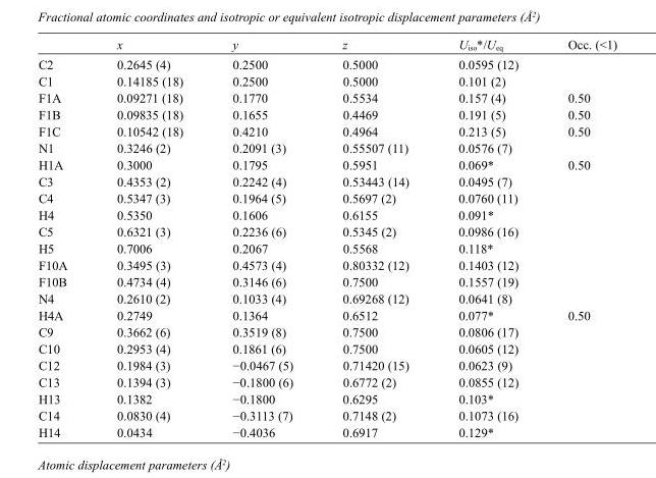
<table><thead><tr><td></td><td>x</td><td>y</td><td>z</td><td>U<sub>iso</sub>*/U<sub>eq</sub></td><td>Occ. (&lt;1)</td></tr></thead><tbody><tr><td>C2</td><td>0.2645 (4)</td><td>0.2500</td><td>0.5000</td><td>0.0595 (12)</td><td></td></tr><tr><td>C1</td><td>0.14185 (18)</td><td>0.2500</td><td>0.5000</td><td>0.101 (2)</td><td></td></tr><tr><td>F1A</td><td>0.09271 (18)</td><td>0.1770</td><td>0.5534</td><td>0.157 (4)</td><td>0.50</td></tr><tr><td>F1B</td><td>0.09835 (18)</td><td>0.1655</td><td>0.4469</td><td>0.191 (5)</td><td>0.50</td></tr><tr><td>F1C</td><td>0.10542 (18)</td><td>0.4210</td><td>0.4964</td><td>0.213 (5)</td><td>0.50</td></tr><tr><td>N1</td><td>0.3246 (2)</td><td>0.2091 (3)</td><td>0.55507 (11)</td><td>0.0576 (7)</td><td></td></tr><tr><td>H1A</td><td>0.3000</td><td>0.1795</td><td>0.5951</td><td>0.069*</td><td>0.50</td></tr><tr><td>C3</td><td>0.4353 (2)</td><td>0.2242 (4)</td><td>0.53443 (14)</td><td>0.0495 (7)</td><td></td></tr><tr><td>C4</td><td>0.5347 (3)</td><td>0.1964 (5)</td><td>0.5697 (2)</td><td>0.0760 (11)</td><td></td></tr><tr><td>H4</td><td>0.5350</td><td>0.1606</td><td>0.6155</td><td>0.091*</td><td></td></tr><tr><td>C5</td><td>0.6321 (3)</td><td>0.2236 (6)</td><td>0.5345 (2)</td><td>0.0986 (16)</td><td></td></tr><tr><td>H5</td><td>0.7006</td><td>0.2067</td><td>0.5568</td><td>0.118*</td><td></td></tr><tr><td>F10A</td><td>0.3495 (3)</td><td>0.4573 (4)</td><td>0.80332 (12)</td><td>0.1403 (12)</td><td></td></tr><tr><td>F10B</td><td>0.4734 (4)</td><td>0.3146 (6)</td><td>0.7500</td><td>0.1557 (19)</td><td></td></tr><tr><td>N4</td><td>0.2610 (2)</td><td>0.1033 (4)</td><td>0.69268 (12)</td><td>0.0641 (8)</td><td></td></tr><tr><td>H4A</td><td>0.2749</td><td>0.1364</td><td>0.6512</td><td>0.077*</td><td>0.50</td></tr><tr><td>C9</td><td>0.3662 (6)</td><td>0.3519 (8)</td><td>0.7500</td><td>0.0806 (17)</td><td></td></tr><tr><td>C10</td><td>0.2953 (4)</td><td>0.1861 (6)</td><td>0.7500</td><td>0.0605 (12)</td><td></td></tr><tr><td>C12</td><td>0.1984 (3)</td><td>−0.0467 (5)</td><td>0.71420 (15)</td><td>0.0623 (9)</td><td></td></tr><tr><td>C13</td><td>0.1394 (3)</td><td>−0.1800 (6)</td><td>0.6772 (2)</td><td>0.0855 (12)</td><td></td></tr><tr><td>H13</td><td>0.1382</td><td>−0.1800</td><td>0.6295</td><td>0.103*</td><td></td></tr><tr><td>C14</td><td>0.0830 (4)</td><td>−0.3113 (7)</td><td>0.7148 (2)</td><td>0.1073 (16)</td><td></td></tr><tr><td>H14</td><td>0.0434</td><td>−0.4036</td><td>0.6917</td><td>0.129*</td><td></td></tr></tbody></table>